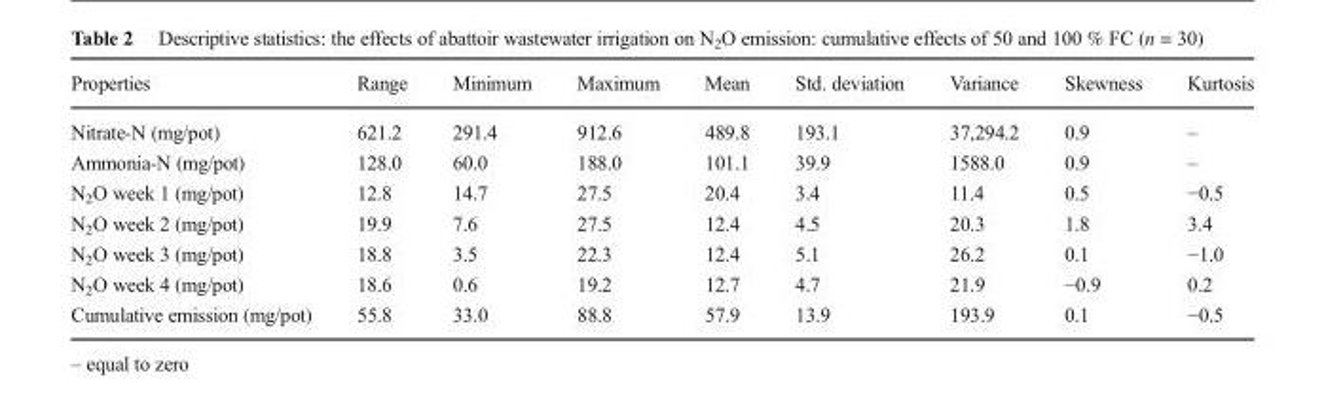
<table><thead><tr><td>Properties</td><td>Range</td><td>Minimum</td><td>Maximum</td><td>Mean</td><td>Std. deviation</td><td>Variance</td><td>Skewness</td><td>Kurtosis</td></tr></thead><tbody><tr><td>Nitrate-N (mg/pot)</td><td>621.2</td><td>291.4</td><td>912.6</td><td>489.8</td><td>193.1</td><td>37,294.2</td><td>0.9</td><td>–</td></tr><tr><td>Ammonia-N (mg/pot)</td><td>128.0</td><td>60.0</td><td>188.0</td><td>101.1</td><td>39.9</td><td>1588.0</td><td>0.9</td><td>–</td></tr><tr><td>N<sub>2</sub>O week 1 (mg/pot)</td><td>12.8</td><td>14.7</td><td>27.5</td><td>20.4</td><td>3.4</td><td>11.4</td><td>0.5</td><td>−0.5</td></tr><tr><td>N<sub>2</sub>O week 2 (mg/pot)</td><td>19.9</td><td>7.6</td><td>27.5</td><td>12.4</td><td>4.5</td><td>20.3</td><td>1.8</td><td>3.4</td></tr><tr><td>N<sub>2</sub>O week 3 (mg/pot)</td><td>18.8</td><td>3.5</td><td>22.3</td><td>12.4</td><td>5.1</td><td>26.2</td><td>0.1</td><td>−1.0</td></tr><tr><td>N<sub>2</sub>O week 4 (mg/pot)</td><td>18.6</td><td>0.6</td><td>19.2</td><td>12.7</td><td>4.7</td><td>21.9</td><td>−0.9</td><td>0.2</td></tr><tr><td>Cumulative emission (mg/pot)</td><td>55.8</td><td>33.0</td><td>88.8</td><td>57.9</td><td>13.9</td><td>193.9</td><td>0.1</td><td>−0.5</td></tr></tbody></table>